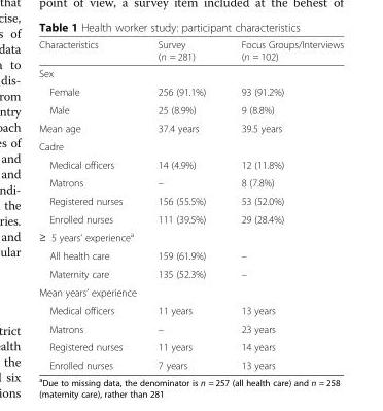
<table><thead><tr><td>Characteristics</td><td>Survey (n = 281)</td><td>Focus Groups/Interviews (n = 102)</td></tr></thead><tbody><tr><td colspan="3">Sex</td></tr><tr><td>Female</td><td>256 (91.1%)</td><td>93 (91.2%)</td></tr><tr><td>Male</td><td>25 (8.9%)</td><td>9 (8.8%)</td></tr><tr><td>Mean age</td><td>37.4 years</td><td>39.5 years</td></tr><tr><td colspan="3">Cadre</td></tr><tr><td>Medical officers</td><td>14 (4.9%)</td><td>12 (11.8%)</td></tr><tr><td>Matrons</td><td>–</td><td>8 (7.8%)</td></tr><tr><td>Registered nurses</td><td>156 (55.5%)</td><td>53 (52.0%)</td></tr><tr><td>Enrolled nurses</td><td>111 (39.5%)</td><td>29 (28.4%)</td></tr><tr><td colspan="3">≥ 5 years’ experience<sup>a</sup></td></tr><tr><td>All health care</td><td>159 (61.9%)</td><td>–</td></tr><tr><td>Maternity care</td><td>135 (52.3%)</td><td>–</td></tr><tr><td colspan="3">Mean years’ experience</td></tr><tr><td>Medical officers</td><td>11 years</td><td>13 years</td></tr><tr><td>Matrons</td><td>–</td><td>23 years</td></tr><tr><td>Registered nurses</td><td>11 years</td><td>14 years</td></tr><tr><td>Enrolled nurses</td><td>7 years</td><td>13 years</td></tr></tbody></table>